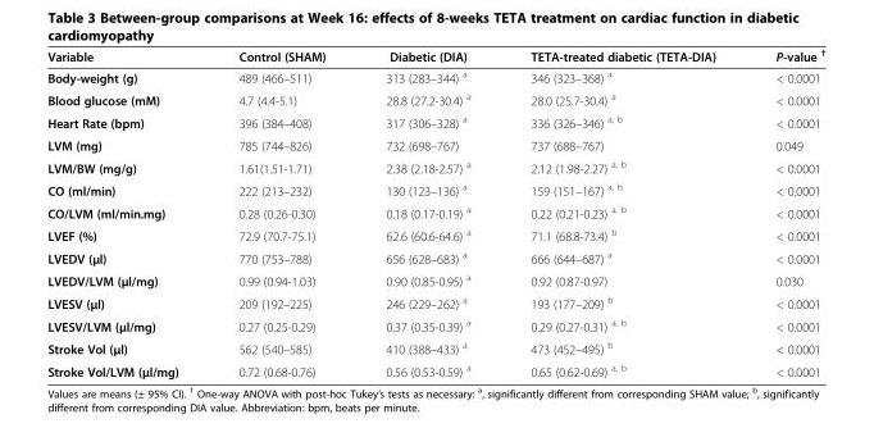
<table><thead><tr><td>Variable</td><td>Control (SHAM)</td><td>Diabetic (DIA)</td><td>TETA-treated diabetic (TETA-DIA)</td><td>P-value <sup>†</sup></td></tr></thead><tbody><tr><td>Body-weight (g)</td><td>489 (466–511)</td><td>313 (283–344) <sup>a</sup></td><td>346 (323–368) <sup>a</sup></td><td>&lt; 0.0001</td></tr><tr><td>Blood glucose (mM)</td><td>4.7 (4.4-5.1)</td><td>28.8 (27.2-30.4) <sup>a</sup></td><td>28.0 (25.7-30.4) <sup>a</sup></td><td>&lt; 0.0001</td></tr><tr><td>Heart Rate (bpm)</td><td>396 (384–408)</td><td>317 (306–328) <sup>a</sup></td><td>336 (326–346) <sup>a, b</sup></td><td>&lt; 0.0001</td></tr><tr><td>LVM (mg)</td><td>785 (744–826)</td><td>732 (698–767)</td><td>737 (688–767)</td><td>0.049</td></tr><tr><td>LVM/BW (mg/g)</td><td>1.61(1.51-1.71)</td><td>2.38 (2.18-2.57) <sup>a</sup></td><td>2.12 (1.98-2.27) <sup>a, b</sup></td><td>&lt; 0.0001</td></tr><tr><td>CO (ml/min)</td><td>222 (213–232)</td><td>130 (123–136) <sup>a</sup></td><td>159 (151–167) <sup>a, b</sup></td><td>&lt; 0.0001</td></tr><tr><td>CO/LVM (ml/min.mg)</td><td>0.28 (0.26-0.30)</td><td>0.18 (0.17-0.19) <sup>a</sup></td><td>0.22 (0.21-0.23) <sup>a, b</sup></td><td>&lt; 0.0001</td></tr><tr><td>LVEF (%)</td><td>72.9 (70.7-75.1)</td><td>62.6 (60.6-64.6) <sup>a</sup></td><td>71.1 (68.8-73.4) <sup>b</sup></td><td>&lt; 0.0001</td></tr><tr><td>LVEDV (μl)</td><td>770 (753–788)</td><td>656 (628–683) <sup>a</sup></td><td>666 (644–687) <sup>a</sup></td><td>&lt; 0.0001</td></tr><tr><td>LVEDV/LVM (μl/mg)</td><td>0.99 (0.94-1.03)</td><td>0.90 (0.85-0.95) <sup>a</sup></td><td>0.92 (0.87-0.97)</td><td>0.030</td></tr><tr><td>LVESV (μl)</td><td>209 (192–225)</td><td>246 (229–262) <sup>a</sup></td><td>193 (177–209) <sup>b</sup></td><td>&lt; 0.0001</td></tr><tr><td>LVESV/LVM (μl/mg)</td><td>0.27 (0.25-0.29)</td><td>0.37 (0.35-0.39) <sup>a</sup></td><td>0.29 (0.27-0.31) <sup>a, b</sup></td><td>&lt; 0.0001</td></tr><tr><td>Stroke Vol (μl)</td><td>562 (540–585)</td><td>410 (388–433) <sup>a</sup></td><td>473 (452–495) <sup>b</sup></td><td>&lt; 0.0001</td></tr><tr><td>Stroke Vol/LVM (μl/mg)</td><td>0.72 (0.68-0.76)</td><td>0.56 (0.53-0.59) <sup>a</sup></td><td>0.65 (0.62-0.69) <sup>a, b</sup></td><td>&lt; 0.0001</td></tr></tbody></table>